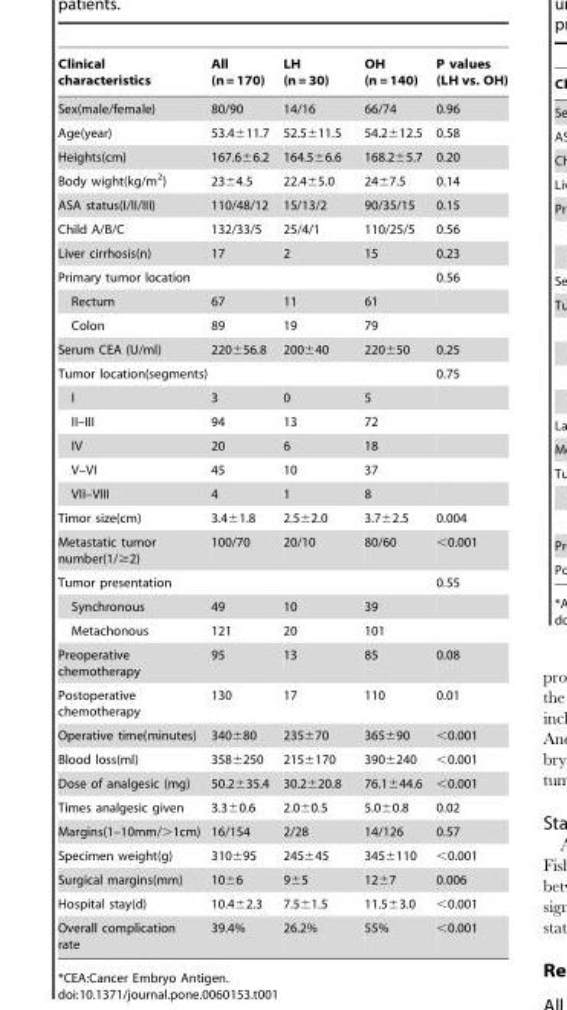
<table><thead><tr><td>Clinical characteristics</td><td>All (n = 170)</td><td>LH (n = 30)</td><td>OH (n = 140)</td><td>P values (LH vs. OH)</td></tr></thead><tbody><tr><td>Sex(male/female)</td><td>80/90</td><td>14/16</td><td>66/74</td><td>0.96</td></tr><tr><td>Age(year)</td><td>53.4±11.7</td><td>52.5±11.5</td><td>54.2±12.5</td><td>0.58</td></tr><tr><td>Heights(cm)</td><td>167.6±6.2</td><td>164.5±6.6</td><td>168.2±5.7</td><td>0.20</td></tr><tr><td>Body wight(kg/m<sup>2</sup>)</td><td>23±4.5</td><td>22.4±5.0</td><td>24±7.5</td><td>0.14</td></tr><tr><td>ASA status(I/II/III)</td><td>110/48/12</td><td>15/13/2</td><td>90/35/15</td><td>0.15</td></tr><tr><td>Child A/B/C</td><td>132/33/5</td><td>25/4/1</td><td>110/25/5</td><td>0.56</td></tr><tr><td>Liver cirrhosis(n)</td><td>17</td><td>2</td><td>15</td><td>0.23</td></tr><tr><td>Primary tumor location</td><td></td><td></td><td></td><td>0.56</td></tr><tr><td>Rectum</td><td>67</td><td>11</td><td>61</td><td></td></tr><tr><td>Colon</td><td>89</td><td>19</td><td>79</td><td></td></tr><tr><td>Serum CEA (U/ml)</td><td>220±56.8</td><td>200±40</td><td>220±50</td><td>0.25</td></tr><tr><td>Tumor location(segments)</td><td></td><td></td><td></td><td>0.75</td></tr><tr><td>I</td><td>3</td><td>0</td><td>5</td><td></td></tr><tr><td>II–III</td><td>94</td><td>13</td><td>72</td><td></td></tr><tr><td>IV</td><td>20</td><td>6</td><td>18</td><td></td></tr><tr><td>V–VI</td><td>45</td><td>10</td><td>37</td><td></td></tr><tr><td>VII–VIII</td><td>4</td><td>1</td><td>8</td><td></td></tr><tr><td>Timor size(cm)</td><td>3.4±1.8</td><td>2.5±2.0</td><td>3.7±2.5</td><td>0.004</td></tr><tr><td>Metastatic tumor number(1/≥2)</td><td>100/70</td><td>20/10</td><td>80/60</td><td>&lt;0.001</td></tr><tr><td>Tumor presentation</td><td></td><td></td><td></td><td>0.55</td></tr><tr><td>Synchronous</td><td>49</td><td>10</td><td>39</td><td></td></tr><tr><td>Metachonous</td><td>121</td><td>20</td><td>101</td><td></td></tr><tr><td>Preoperative chemotherapy</td><td>95</td><td>13</td><td>85</td><td>0.08</td></tr><tr><td>Postoperative chemotherapy</td><td>130</td><td>17</td><td>110</td><td>0.01</td></tr><tr><td>Operative time(minutes)</td><td>340±80</td><td>235±70</td><td>365±90</td><td>&lt;0.001</td></tr><tr><td>Blood loss(ml)</td><td>358±250</td><td>215±170</td><td>390±240</td><td>&lt;0.001</td></tr><tr><td>Dose of analgesic (mg)</td><td>50.2±35.4</td><td>30.2±20.8</td><td>76.1±44.6</td><td>&lt;0.001</td></tr><tr><td>Times analgesic given</td><td>3.3±0.6</td><td>2.0±0.5</td><td>5.0±0.8</td><td>0.02</td></tr><tr><td>Margins(1–10mm/&gt;1cm)</td><td>16/154</td><td>2/28</td><td>14/126</td><td>0.57</td></tr><tr><td>Specimen weight(g)</td><td>310±95</td><td>245±45</td><td>345±110</td><td>&lt;0.001</td></tr><tr><td>Surgical margins(mm)</td><td>10±6</td><td>9±5</td><td>12±7</td><td>0.006</td></tr><tr><td>Hospital stay(d)</td><td>10.4±2.3</td><td>7.5±1.5</td><td>11.5±3.0</td><td>&lt;0.001</td></tr><tr><td>Overall complication rate</td><td>39.4%</td><td>26.2%</td><td>55%</td><td>&lt;0.001</td></tr></tbody></table>